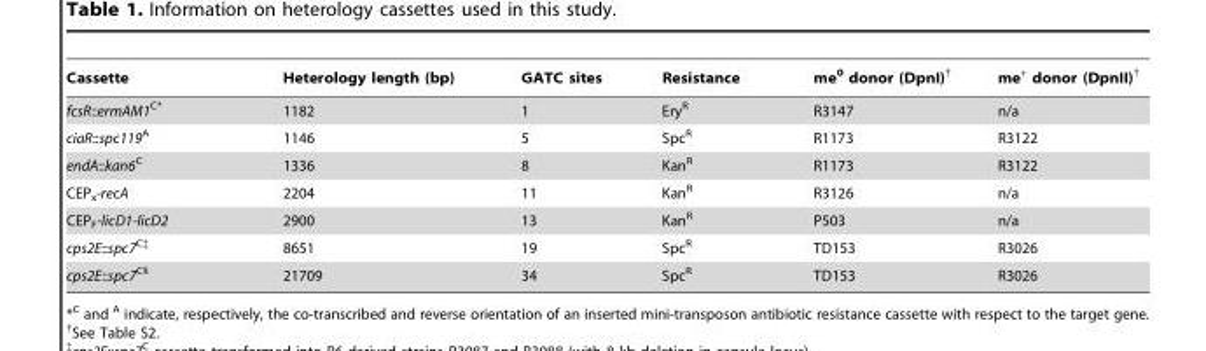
<table><thead><tr><td>Cassette</td><td>Heterology length (bp)</td><td>GATC sites</td><td>Resistance</td><td>me<sup>0</sup> donor (DpnI)†</td><td>me<sup>+</sup> donor (DpnII)†</td></tr></thead><tbody><tr><td>fcsR::ermAM1<sup>C</sup>*</td><td>1182</td><td>1</td><td>Ery<sup>R</sup></td><td>R3147</td><td>n/a</td></tr><tr><td>ciaR::spc119<sup>A</sup></td><td>1146</td><td>5</td><td>Spc<sup>R</sup></td><td>R1173</td><td>R3122</td></tr><tr><td>endA::kan6<sup>C</sup></td><td>1336</td><td>8</td><td>Kan<sup>R</sup></td><td>R1173</td><td>R3122</td></tr><tr><td>CEP<sub>x</sub>-recA</td><td>2204</td><td>11</td><td>Kan<sup>R</sup></td><td>R3126</td><td>n/a</td></tr><tr><td>CEP<sub>F</sub>-licD1-licD2</td><td>2900</td><td>13</td><td>Kan<sup>R</sup></td><td>P503</td><td>n/a</td></tr><tr><td>cps2E::spc7<sup>C</sup>‡</td><td>8651</td><td>19</td><td>Spc<sup>R</sup></td><td>TD153</td><td>R3026</td></tr><tr><td>cps2E::spc7<sup>C</sup>§</td><td>21709</td><td>34</td><td>Spc<sup>R</sup></td><td>TD153</td><td>R3026</td></tr></tbody></table>